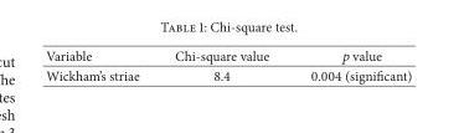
<table><thead><tr><td>Variable</td><td>Chi-square value</td><td>value</td></tr></thead><tbody><tr><td>Wickham’s striae</td><td>8.4</td><td>0.004 (significant)</td></tr></tbody></table>